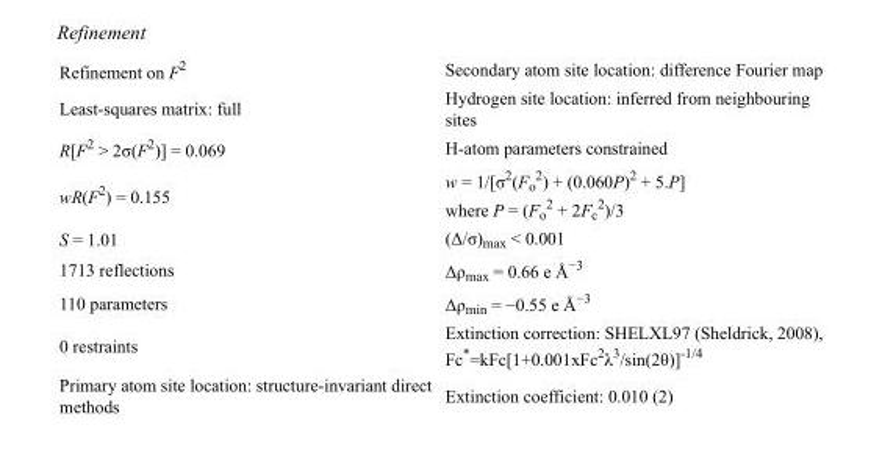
<table><tbody><tr><td>Refinement on F<sup>2</sup></td><td>Secondary atom site location: difference Fourier map</td></tr><tr><td>Least-squares matrix: full</td><td>Hydrogen site location: inferred from neighbouring sites</td></tr><tr><td>R[F<sup>2</sup> &gt; 2σ(F<sup>2</sup>)] = 0.069</td><td>H-atom parameters constrained</td></tr><tr><td>wR(F<sup>2</sup>) = 0.155</td><td>w = 1/[σ<sup>2</sup>(F<sub>o</sub> <sup>2</sup>) + (0.060P)<sup>2</sup> + 5.P] where P = (F<sub>o</sub> <sup>2</sup> + 2F<sub>c</sub> <sup>2</sup>)/3</td></tr><tr><td>S = 1.01</td><td>(Δ/σ)<sub>max</sub> &lt; 0.001</td></tr><tr><td>1713 reflections</td><td>Δρ<sub>max</sub> = 0.66 e Å<sup>−3</sup></td></tr><tr><td>110 parameters</td><td>Δρ<sub>min</sub> = −0.55 e Å<sup>−3</sup></td></tr><tr><td>0 restraints</td><td>Extinction correction: SHELXL97 (Sheldrick, 2008), Fc*=kFc[1+0.001xFc<sup>2</sup>λ<sup>3</sup>/sin(2θ)]<sup>-1/4</sup></td></tr><tr><td>Primary atom site location: structure-invariant direct methods</td><td>Extinction coefficient: 0.010 (2)</td></tr></tbody></table>